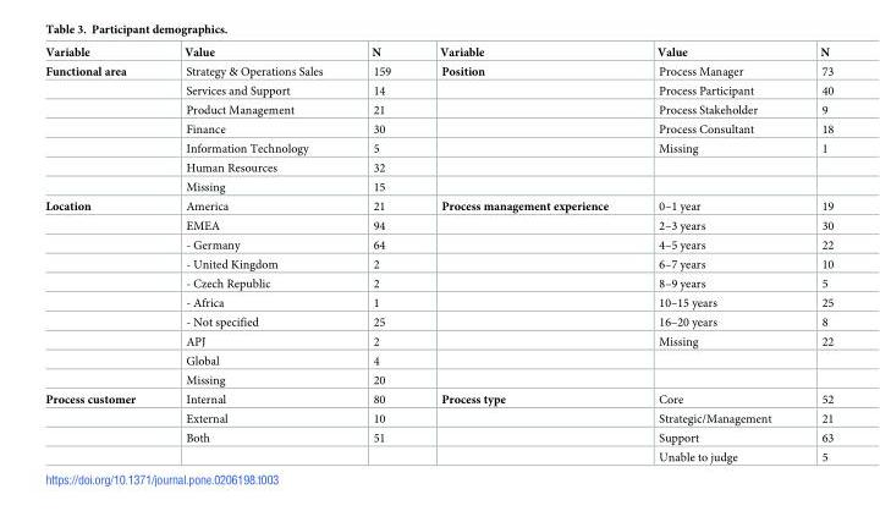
<table><thead><tr><td>Variable</td><td>Value</td><td>N</td><td>Variable</td><td>Value</td><td>N</td></tr></thead><tbody><tr><td rowspan="7">Functional area</td><td>Strategy &amp; Operations Sales</td><td>159</td><td>Position</td><td>Process Manager</td><td>73</td></tr><tr><td>Services and Support</td><td>14</td><td></td><td>Process Participant</td><td>40</td></tr><tr><td>Product Management</td><td>21</td><td></td><td>Process Stakeholder</td><td>9</td></tr><tr><td>Finance</td><td>30</td><td></td><td>Process Consultant</td><td>18</td></tr><tr><td>Information Technology</td><td>5</td><td></td><td>Missing</td><td>1</td></tr><tr><td>Human Resources</td><td>32</td><td></td><td></td><td></td></tr><tr><td>Missing</td><td>15</td><td></td><td></td><td></td></tr><tr><td rowspan="10">Location</td><td>America</td><td>21</td><td>Process management experience</td><td>0–1 year</td><td>19</td></tr><tr><td>EMEA</td><td>94</td><td></td><td>2–3 years</td><td>30</td></tr><tr><td>- Germany</td><td>64</td><td></td><td>4–5 years</td><td>22</td></tr><tr><td>- United Kingdom</td><td>2</td><td></td><td>6–7 years</td><td>10</td></tr><tr><td>- Czech Republic</td><td>2</td><td></td><td>8–9 years</td><td>5</td></tr><tr><td>- Africa</td><td>1</td><td></td><td>10–15 years</td><td>25</td></tr><tr><td>- Not specified</td><td>25</td><td></td><td>16–20 years</td><td>8</td></tr><tr><td>APJ</td><td>2</td><td></td><td>Missing</td><td>22</td></tr><tr><td>Global</td><td>4</td><td></td><td></td><td></td></tr><tr><td>Missing</td><td>20</td><td></td><td></td><td></td></tr><tr><td rowspan="4">Process customer</td><td>Internal</td><td>80</td><td>Process type</td><td>Core</td><td>52</td></tr><tr><td>External</td><td>10</td><td></td><td>Strategic/Management</td><td>21</td></tr><tr><td>Both</td><td>51</td><td></td><td>Support</td><td>63</td></tr><tr><td></td><td></td><td></td><td>Unable to judge</td><td>5</td></tr></tbody></table>